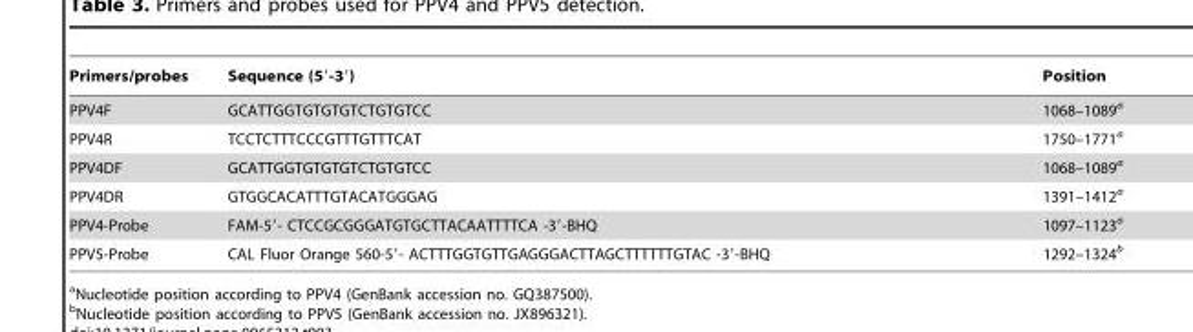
<table><thead><tr><td>Primers/probes</td><td>Sequence (5′-3′)</td><td>Position</td></tr></thead><tbody><tr><td>PPV4F</td><td>GCATTGGTGTGTGTCTGTGTCC</td><td>1068–1089<sup>a</sup></td></tr><tr><td>PPV4R</td><td>TCCTCTTTCCCGTTTGTTTCAT</td><td>1750–1771<sup>a</sup></td></tr><tr><td>PPV4DF</td><td>GCATTGGTGTGTGTCTGTGTCC</td><td>1068–1089<sup>a</sup></td></tr><tr><td>PPV4DR</td><td>GTGGCACATTTGTACATGGGAG</td><td>1391–1412<sup>a</sup></td></tr><tr><td>PPV4-Probe</td><td>FAM-5′- CTCCGCGGGATGTGCTTACAATTTTCA -3′-BHQ</td><td>1097–1123<sup>a</sup></td></tr><tr><td>PPV5-Probe</td><td>CAL Fluor Orange 560-5′- ACTTTGGTGTTGAGGGACTTAGCTTTTTTGTAC -3′-BHQ</td><td>1292–1324<sup>b</sup></td></tr></tbody></table>